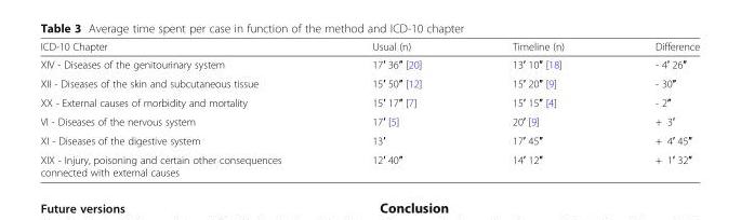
<table><thead><tr><td>ICD-10 Chapter</td><td>Usual (n)</td><td>Timeline (n)</td><td>Difference</td></tr></thead><tbody><tr><td>XIV - Diseases of the genitourinary system</td><td>17′ 36″ [20]</td><td>13′ 10″ [18]</td><td>- 4′ 26″</td></tr><tr><td>XII - Diseases of the skin and subcutaneous tissue</td><td>15′ 50″ [12]</td><td>15′ 20″ [9]</td><td>- 30″</td></tr><tr><td>XX - External causes of morbidity and mortality</td><td>15′ 17″ [7]</td><td>15′ 15″ [4]</td><td>- 2″</td></tr><tr><td>VI - Diseases of the nervous system</td><td>17′ [5]</td><td>20′ [9]</td><td>+ 3′</td></tr><tr><td>XI - Diseases of the digestive system</td><td>13′</td><td>17′ 45″</td><td>+ 4′ 45″</td></tr><tr><td>XIX - Injury, poisoning and certain other consequences connected with external causes</td><td>12′ 40″</td><td>14′ 12″</td><td>+ 1′ 32″</td></tr></tbody></table>